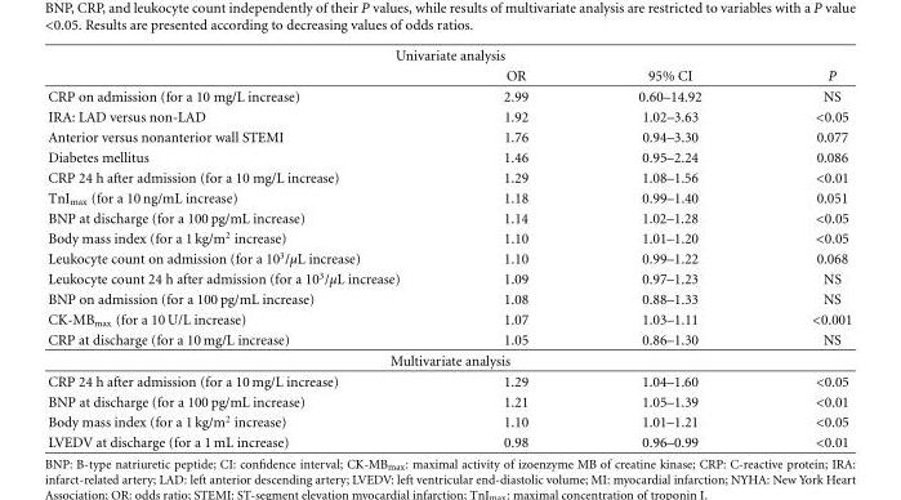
<table><thead><tr><td colspan="4">Univariate analysis</td></tr><tr><td></td><td>OR</td><td>95% CI</td><td>P</td></tr></thead><tbody><tr><td>CRP on admission (for a 10 mg/L increase)</td><td>2.99</td><td>0.60–14.92</td><td>NS</td></tr><tr><td>IRA: LAD versus non-LAD</td><td>1.92</td><td>1.02–3.63</td><td>&lt;0.05</td></tr><tr><td>Anterior versus nonanterior wall STEMI</td><td>1.76</td><td>0.94–3.30</td><td>0.077</td></tr><tr><td>Diabetes mellitus</td><td>1.46</td><td>0.95–2.24</td><td>0.086</td></tr><tr><td>CRP 24 h after admission (for a 10 mg/L increase)</td><td>1.29</td><td>1.08–1.56</td><td>&lt;0.01</td></tr><tr><td>TnI<sub>max</sub> (for a 10 ng/mL increase)</td><td>1.18</td><td>0.99–1.40</td><td>0.051</td></tr><tr><td>BNP at discharge (for a 100 pg/mL increase)</td><td>1.14</td><td>1.02–1.28</td><td>&lt;0.05</td></tr><tr><td>Body mass index (for a 1 kg/m<sup>2</sup> increase)</td><td>1.10</td><td>1.01–1.20</td><td>&lt;0.05</td></tr><tr><td>Leukocyte count on admission (for a 10<sup>3</sup>/μL increase)</td><td>1.10</td><td>0.99–1.22</td><td>0.068</td></tr><tr><td>Leukocyte count 24 h after admission (for a 10<sup>3</sup>/μL increase)</td><td>1.09</td><td>0.97–1.23</td><td>NS</td></tr><tr><td>BNP on admission (for a 100 pg/mL increase)</td><td>1.08</td><td>0.88–1.33</td><td>NS</td></tr><tr><td>CK-MB<sub>max</sub> (for a 10 U/L increase)</td><td>1.07</td><td>1.03–1.11</td><td>&lt;0.001</td></tr><tr><td>CRP at discharge (for a 10 mg/L increase)</td><td>1.05</td><td>0.86–1.30</td><td>NS</td></tr><tr><td colspan="4">Multivariate analysis</td></tr><tr><td>CRP 24 h after admission (for a 10 mg/L increase)</td><td>1.29</td><td>1.04–1.60</td><td>&lt;0.05</td></tr><tr><td>BNP at discharge (for a 100 pg/mL increase)</td><td>1.21</td><td>1.05–1.39</td><td>&lt;0.01</td></tr><tr><td>Body mass index (for a 1 kg/m<sup>2</sup> increase)</td><td>1.10</td><td>1.01–1.21</td><td>&lt;0.05</td></tr><tr><td>LVEDV at discharge (for a 1 mL increase)</td><td>0.98</td><td>0.96–0.99</td><td>&lt;0.01</td></tr></tbody></table>